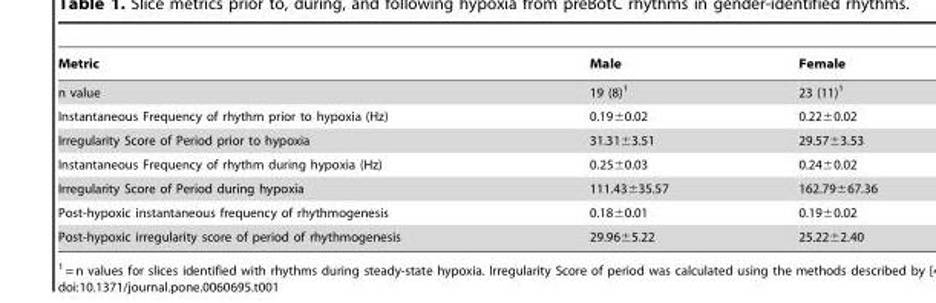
<table><thead><tr><td>Metric</td><td>Male</td><td>Female</td></tr></thead><tbody><tr><td>n value</td><td>19 (8)<sup>1</sup></td><td>23 (11)<sup>1</sup></td></tr><tr><td>Instantaneous Frequency of rhythm prior to hypoxia (Hz)</td><td>0.19±0.02</td><td>0.22±0.02</td></tr><tr><td>Irregularity Score of Period prior to hypoxia</td><td>31.31±3.51</td><td>29.57±3.53</td></tr><tr><td>Instantaneous Frequency of rhythm during hypoxia (Hz)</td><td>0.25±0.03</td><td>0.24±0.02</td></tr><tr><td>Irregularity Score of Period during hypoxia</td><td>111.43±35.57</td><td>162.79±67.36</td></tr><tr><td>Post-hypoxic instantaneous frequency of rhythmogenesis</td><td>0.18±0.01</td><td>0.19±0.02</td></tr><tr><td>Post-hypoxic irregularity score of period of rhythmogenesis</td><td>29.96±5.22</td><td>25.22±2.40</td></tr></tbody></table>